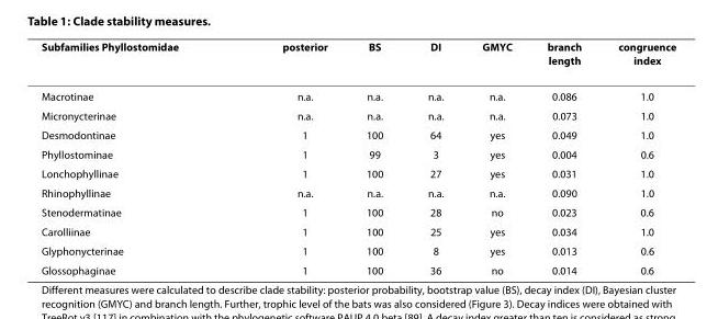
<table><thead><tr><td>Subfamilies Phyllostomidae</td><td>posterior</td><td>BS</td><td>DI</td><td>GMYC</td><td>branch length</td><td>congruence index</td></tr></thead><tbody><tr><td>Macrotinae</td><td>n.a.</td><td>n.a.</td><td>n.a.</td><td>n.a.</td><td>0.086</td><td>1.0</td></tr><tr><td>Micronycterinae</td><td>n.a.</td><td>n.a.</td><td>n.a.</td><td>n.a.</td><td>0.073</td><td>1.0</td></tr><tr><td>Desmodontinae</td><td>1</td><td>100</td><td>64</td><td>yes</td><td>0.049</td><td>1.0</td></tr><tr><td>Phyllostominae</td><td>1</td><td>99</td><td>3</td><td>yes</td><td>0.004</td><td>0.6</td></tr><tr><td>Lonchophyllinae</td><td>1</td><td>100</td><td>27</td><td>yes</td><td>0.031</td><td>1.0</td></tr><tr><td>Rhinophyllinae</td><td>n.a.</td><td>n.a.</td><td>n.a.</td><td>n.a.</td><td>0.090</td><td>1.0</td></tr><tr><td>Stenodermatinae</td><td>1</td><td>100</td><td>28</td><td>no</td><td>0.023</td><td>0.6</td></tr><tr><td>Carolliinae</td><td>1</td><td>100</td><td>25</td><td>yes</td><td>0.034</td><td>1.0</td></tr><tr><td>Glyphonycterinae</td><td>1</td><td>100</td><td>8</td><td>yes</td><td>0.013</td><td>0.6</td></tr><tr><td>Glossophaginae</td><td>1</td><td>100</td><td>36</td><td>no</td><td>0.014</td><td>0.6</td></tr></tbody></table>